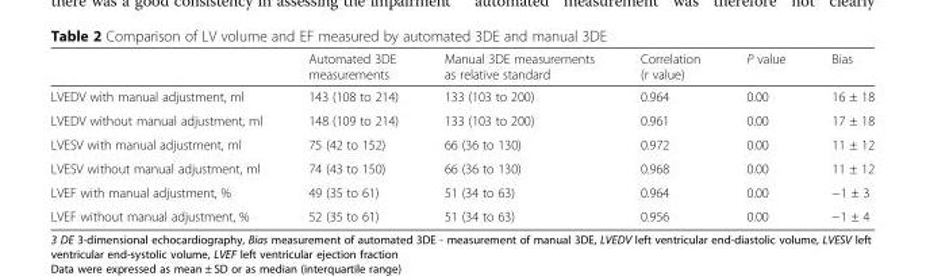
<table><thead><tr><td></td><td>Automated 3DE measurements</td><td>Manual 3DE measurements as relative standard</td><td>Correlation (r value)</td><td>P value</td><td>Bias</td></tr></thead><tbody><tr><td>LVEDV with manual adjustment, ml</td><td>143 (108 to 214)</td><td>133 (103 to 200)</td><td>0.964</td><td>0.00</td><td>16 ± 18</td></tr><tr><td>LVEDV without manual adjustment, ml</td><td>148 (109 to 214)</td><td>133 (103 to 200)</td><td>0.961</td><td>0.00</td><td>17 ± 18</td></tr><tr><td>LVESV with manual adjustment, ml</td><td>75 (42 to 152)</td><td>66 (36 to 130)</td><td>0.972</td><td>0.00</td><td>11 ± 12</td></tr><tr><td>LVESV without manual adjustment, ml</td><td>74 (43 to 150)</td><td>66 (36 to 130)</td><td>0.968</td><td>0.00</td><td>11 ± 12</td></tr><tr><td>LVEF with manual adjustment, %</td><td>49 (35 to 61)</td><td>51 (34 to 63)</td><td>0.964</td><td>0.00</td><td>−1 ± 3</td></tr><tr><td>LVEF without manual adjustment, %</td><td>52 (35 to 61)</td><td>51 (34 to 63)</td><td>0.956</td><td>0.00</td><td>−1 ± 4</td></tr></tbody></table>